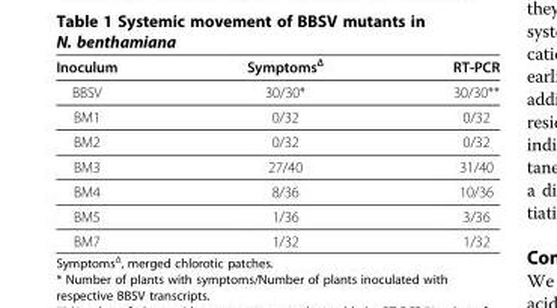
<table><thead><tr><td>Inoculum</td><td>SymptomsΔ</td><td>RT-PCR</td></tr></thead><tbody><tr><td>BBSV</td><td>30/30*</td><td>30/30**</td></tr><tr><td>BM1</td><td>0/32</td><td>0/32</td></tr><tr><td>BM2</td><td>0/32</td><td>0/32</td></tr><tr><td>BM3</td><td>27/40</td><td>31/40</td></tr><tr><td>BM4</td><td>8/36</td><td>10/36</td></tr><tr><td>BM5</td><td>1/36</td><td>3/36</td></tr><tr><td>BM7</td><td>1/32</td><td>1/32</td></tr></tbody></table>